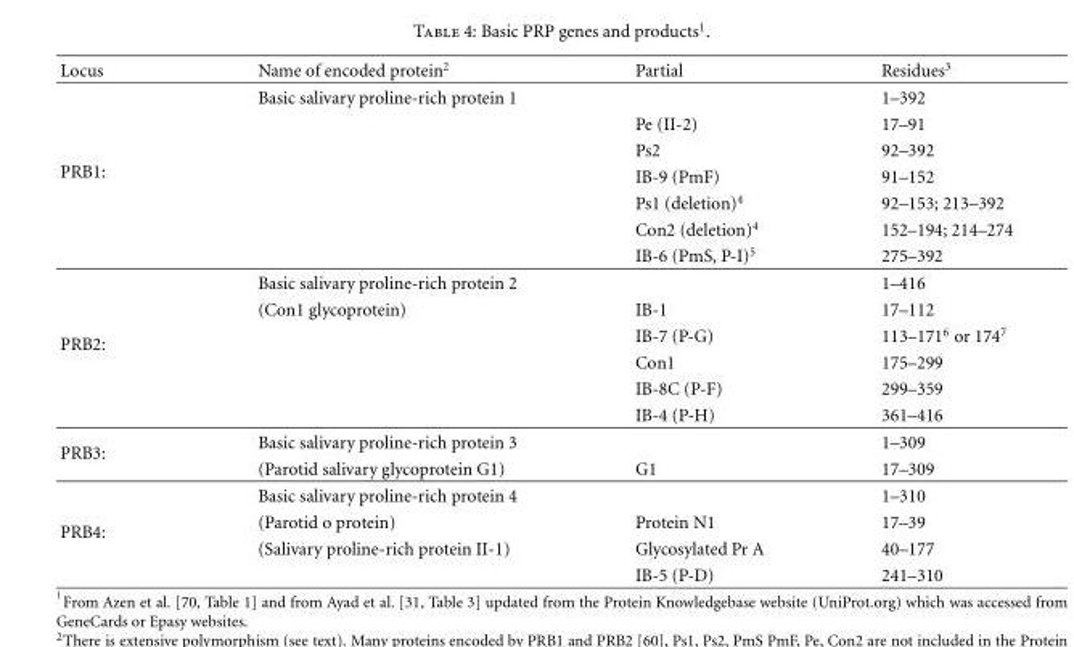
<table><thead><tr><td>Locus</td><td>Name of encoded protein<sup>2</sup></td><td>Partial</td><td>Residues<sup>3</sup></td></tr></thead><tbody><tr><td rowspan="7">PRB1:</td><td>Basic salivary proline-rich protein 1</td><td></td><td>1–392</td></tr><tr><td></td><td>Pe (II-2)</td><td>17–91</td></tr><tr><td></td><td>Ps2</td><td>92–392</td></tr><tr><td></td><td>IB-9 (PmF)</td><td>91–152</td></tr><tr><td></td><td>Ps1 (deletion)<sup>4</sup></td><td>92–153; 213–392</td></tr><tr><td></td><td>Con2 (deletion)<sup>4</sup></td><td>152–194; 214–274</td></tr><tr><td></td><td>IB-6 (PmS, P-I)<sup>5</sup></td><td>275–392</td></tr><tr><td rowspan="6">PRB2:</td><td>Basic salivary proline-rich protein 2</td><td></td><td>1–416</td></tr><tr><td>(Con1 glycoprotein)</td><td>IB-1</td><td>17–112</td></tr><tr><td></td><td>IB-7 (P-G)</td><td>113–171<sup>6</sup> or 174<sup>7</sup></td></tr><tr><td></td><td>Con1</td><td>175–299</td></tr><tr><td></td><td>IB-8C (P-F)</td><td>299–359</td></tr><tr><td></td><td>IB-4 (P-H)</td><td>361–416</td></tr><tr><td rowspan="2">PRB3:</td><td>Basic salivary proline-rich protein 3</td><td></td><td>1–309</td></tr><tr><td>(Parotid salivary glycoprotein G1)</td><td>G1</td><td>17–309</td></tr><tr><td rowspan="4">PRB4:</td><td>Basic salivary proline-rich protein 4</td><td></td><td>1–310</td></tr><tr><td>(Parotid o protein)</td><td>Protein N1</td><td>17–39</td></tr><tr><td>(Salivary proline-rich protein II-1)</td><td>Glycosylated Pr A</td><td>40–177</td></tr><tr><td></td><td>IB-5 (P-D)</td><td>241–310</td></tr></tbody></table>